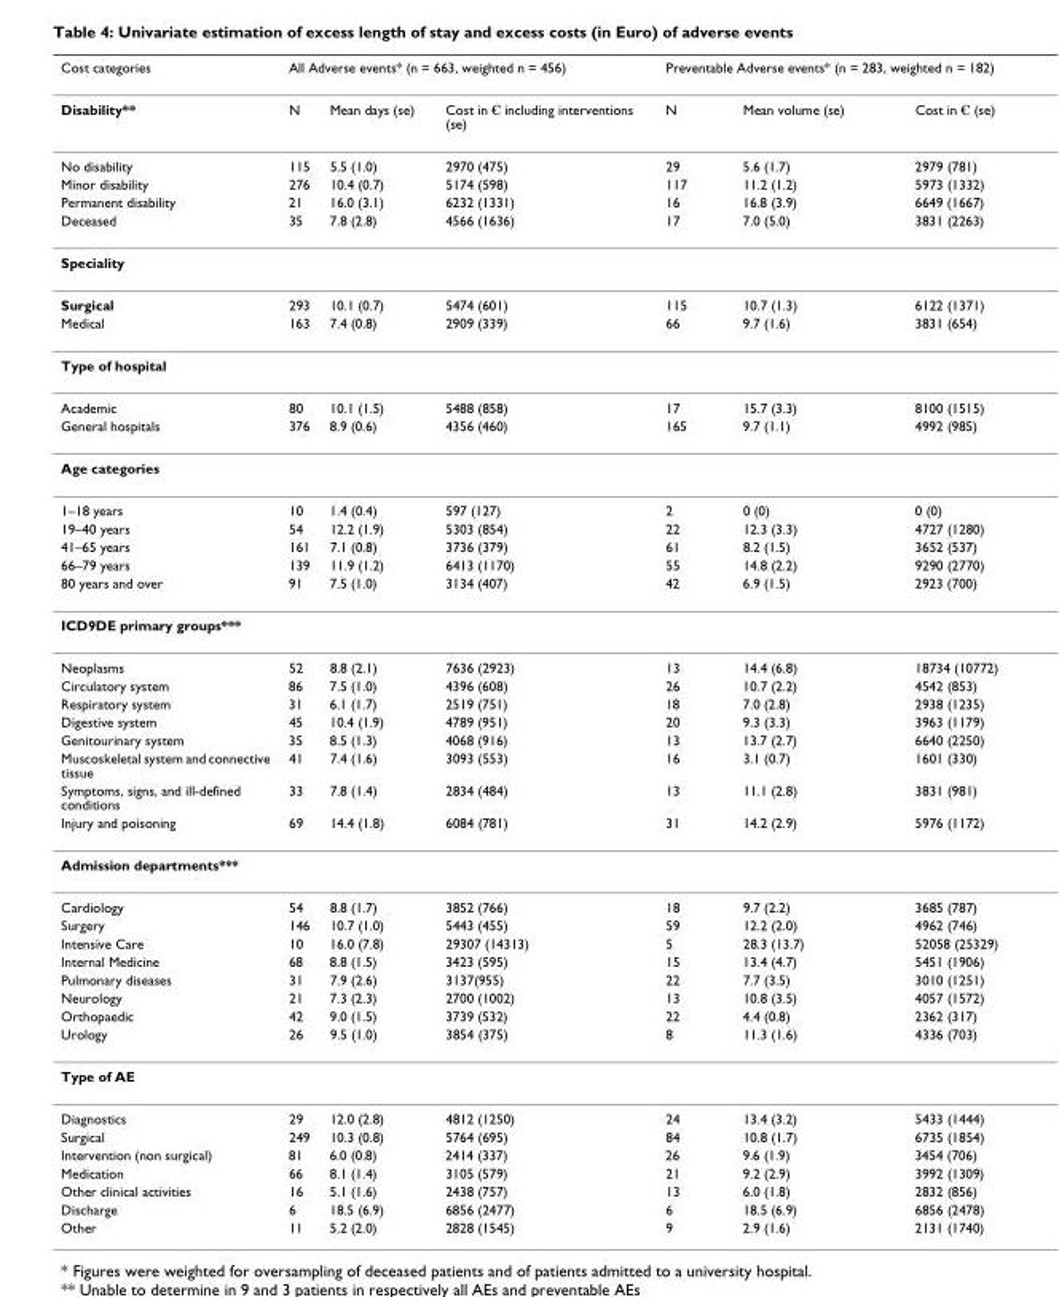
<table><thead><tr><td rowspan="2">Cost categories Disability**</td><td colspan="3">All Adverse events* (n = 663, weighted n = 456)</td><td colspan="3">Preventable Adverse events* (n = 283, weighted n = 182)</td></tr><tr><td>N</td><td>Mean days (se)</td><td>Cost in € including interventions (se)</td><td>N</td><td>Mean volume (se)</td><td>Cost in € (se)</td></tr></thead><tbody><tr><td>No disability</td><td>115</td><td>5.5 (1.0)</td><td>2970 (475)</td><td>29</td><td>5.6 (1.7)</td><td>2979 (781)</td></tr><tr><td>Minor disability</td><td>276</td><td>10.4 (0.7)</td><td>5174 (598)</td><td>117</td><td>11.2 (1.2)</td><td>5973 (1332)</td></tr><tr><td>Permanent disability</td><td>21</td><td>16.0 (3.1)</td><td>6232 (1331)</td><td>16</td><td>16.8 (3.9)</td><td>6649 (1667)</td></tr><tr><td>Deceased</td><td>35</td><td>7.8 (2.8)</td><td>4566 (1636)</td><td>17</td><td>7.0 (5.0)</td><td>3831 (2263)</td></tr><tr><td colspan="7">Speciality</td></tr><tr><td>Surgical</td><td>293</td><td>10.1 (0.7)</td><td>5474 (601)</td><td>115</td><td>10.7 (1.3)</td><td>6122 (1371)</td></tr><tr><td>Medical</td><td>163</td><td>7.4 (0.8)</td><td>2909 (339)</td><td>66</td><td>9.7 (1.6)</td><td>3831 (654)</td></tr><tr><td colspan="7">Type of hospital</td></tr><tr><td>Academic</td><td>80</td><td>10.1 (1.5)</td><td>5488 (858)</td><td>17</td><td>15.7 (3.3)</td><td>8100 (1515)</td></tr><tr><td>General hospitals</td><td>376</td><td>8.9 (0.6)</td><td>4356 (460)</td><td>165</td><td>9.7 (1.1)</td><td>4992 (985)</td></tr><tr><td colspan="7">Age categories</td></tr><tr><td>1–18 years</td><td>10</td><td>1.4 (0.4)</td><td>597 (127)</td><td>2</td><td>0 (0)</td><td>0 (0)</td></tr><tr><td>19–40 years</td><td>54</td><td>12.2 (1.9)</td><td>5303 (854)</td><td>22</td><td>12.3 (3.3)</td><td>4727 (1280)</td></tr><tr><td>41–65 years</td><td>161</td><td>7.1 (0.8)</td><td>3736 (379)</td><td>61</td><td>8.2 (1.5)</td><td>3652 (537)</td></tr><tr><td>66–79 years</td><td>139</td><td>11.9 (1.2)</td><td>6413 (1170)</td><td>55</td><td>14.8 (2.2)</td><td>9290 (2770)</td></tr><tr><td>80 years and over</td><td>91</td><td>7.5 (1.0)</td><td>3134 (407)</td><td>42</td><td>6.9 (1.5)</td><td>2923 (700)</td></tr><tr><td colspan="7">ICD9DE primary groups***</td></tr><tr><td>Neoplasms</td><td>52</td><td>8.8 (2.1)</td><td>7636 (2923)</td><td>13</td><td>14.4 (6.8)</td><td>18734 (10772)</td></tr><tr><td>Circulatory system</td><td>86</td><td>7.5 (1.0)</td><td>4396 (608)</td><td>26</td><td>10.7 (2.2)</td><td>4542 (853)</td></tr><tr><td>Respiratory system</td><td>31</td><td>6.1 (1.7)</td><td>2519 (751)</td><td>18</td><td>7.0 (2.8)</td><td>2938 (1235)</td></tr><tr><td>Digestive system</td><td>45</td><td>10.4 (1.9)</td><td>4789 (951)</td><td>20</td><td>9.3 (3.3)</td><td>3963 (1179)</td></tr><tr><td>Genitourinary system</td><td>35</td><td>8.5 (1.3)</td><td>4068 (916)</td><td>13</td><td>13.7 (2.7)</td><td>6640 (2250)</td></tr><tr><td>Muscoskeletal system and connective tissue</td><td>41</td><td>7.4 (1.6)</td><td>3093 (553)</td><td>16</td><td>3.1 (0.7)</td><td>1601 (330)</td></tr><tr><td>Symptoms, signs, and ill-defined conditions</td><td>33</td><td>7.8 (1.4)</td><td>2834 (484)</td><td>13</td><td>11.1 (2.8)</td><td>3831 (981)</td></tr><tr><td>Injury and poisoning</td><td>69</td><td>14.4 (1.8)</td><td>6084 (781)</td><td>31</td><td>14.2 (2.9)</td><td>5976 (1172)</td></tr><tr><td colspan="7">Admission departments***</td></tr><tr><td>Cardiology</td><td>54</td><td>8.8 (1.7)</td><td>3852 (766)</td><td>18</td><td>9.7 (2.2)</td><td>3685 (787)</td></tr><tr><td>Surgery</td><td>146</td><td>10.7 (1.0)</td><td>5443 (455)</td><td>59</td><td>12.2 (2.0)</td><td>4962 (746)</td></tr><tr><td>Intensive Care</td><td>10</td><td>16.0 (7.8)</td><td>29307 (14313)</td><td>5</td><td>28.3 (13.7)</td><td>52058 (25329)</td></tr><tr><td>Internal Medicine</td><td>68</td><td>8.8 (1.5)</td><td>3423 (595)</td><td>15</td><td>13.4 (4.7)</td><td>5451 (1906)</td></tr><tr><td>Pulmonary diseases</td><td>31</td><td>7.9 (2.6)</td><td>3137(955)</td><td>22</td><td>7.7 (3.5)</td><td>3010 (1251)</td></tr><tr><td>Neurology</td><td>21</td><td>7.3 (2.3)</td><td>2700 (1002)</td><td>13</td><td>10.8 (3.5)</td><td>4057 (1572)</td></tr><tr><td>Orthopaedic</td><td>42</td><td>9.0 (1.5)</td><td>3739 (532)</td><td>22</td><td>4.4 (0.8)</td><td>2362 (317)</td></tr><tr><td>Urology</td><td>26</td><td>9.5 (1.0)</td><td>3854 (375)</td><td>8</td><td>11.3 (1.6)</td><td>4336 (703)</td></tr><tr><td colspan="7">Type of AE</td></tr><tr><td>Diagnostics</td><td>29</td><td>12.0 (2.8)</td><td>4812 (1250)</td><td>24</td><td>13.4 (3.2)</td><td>5433 (1444)</td></tr><tr><td>Surgical</td><td>249</td><td>10.3 (0.8)</td><td>5764 (695)</td><td>84</td><td>10.8 (1.7)</td><td>6735 (1854)</td></tr><tr><td>Intervention (non surgical)</td><td>81</td><td>6.0 (0.8)</td><td>2414 (337)</td><td>26</td><td>9.6 (1.9)</td><td>3454 (706)</td></tr><tr><td>Medication</td><td>66</td><td>8.1 (1.4)</td><td>3105 (579)</td><td>21</td><td>9.2 (2.9)</td><td>3992 (1309)</td></tr><tr><td>Other clinical activities</td><td>16</td><td>5.1 (1.6)</td><td>2438 (757)</td><td>13</td><td>6.0 (1.8)</td><td>2832 (856)</td></tr><tr><td>Discharge</td><td>6</td><td>18.5 (6.9)</td><td>6856 (2477)</td><td>6</td><td>18.5 (6.9)</td><td>6856 (2478)</td></tr><tr><td>Other</td><td>11</td><td>5.2 (2.0)</td><td>2828 (1545)</td><td>9</td><td>2.9 (1.6)</td><td>2131 (1740)</td></tr></tbody></table>